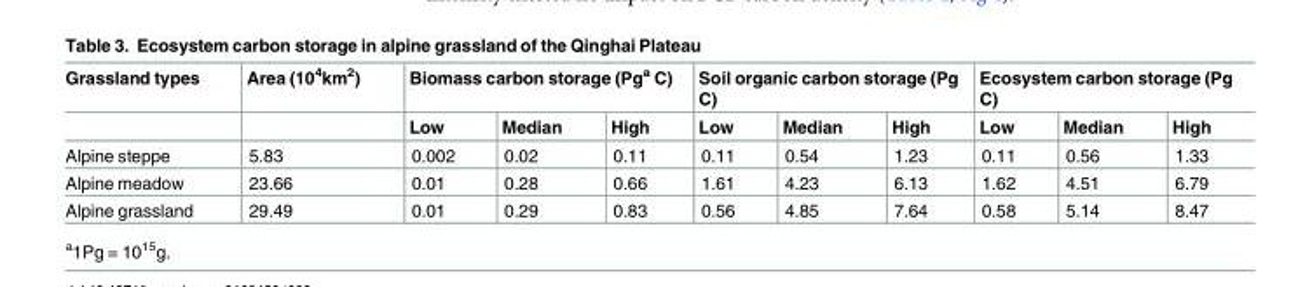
<table><thead><tr><td rowspan="2">Grassland types</td><td rowspan="2">Area (10<sup>4</sup>km<sup>2</sup>)</td><td colspan="3">Biomass carbon storage (Pg<sup>a</sup> C)</td><td colspan="3">Soil organic carbon storage (Pg C)</td><td colspan="3">Ecosystem carbon storage (Pg C)</td></tr><tr><td>Low</td><td>Median</td><td>High</td><td>Low</td><td>Median</td><td>High</td><td>Low</td><td>Median</td><td>High</td></tr></thead><tbody><tr><td>Alpine steppe</td><td>5.83</td><td>0.002</td><td>0.02</td><td>0.11</td><td>0.11</td><td>0.54</td><td>1.23</td><td>0.11</td><td>0.56</td><td>1.33</td></tr><tr><td>Alpine meadow</td><td>23.66</td><td>0.01</td><td>0.28</td><td>0.66</td><td>1.61</td><td>4.23</td><td>6.13</td><td>1.62</td><td>4.51</td><td>6.79</td></tr><tr><td>Alpine grassland</td><td>29.49</td><td>0.01</td><td>0.29</td><td>0.83</td><td>0.56</td><td>4.85</td><td>7.64</td><td>0.58</td><td>5.14</td><td>8.47</td></tr></tbody></table>